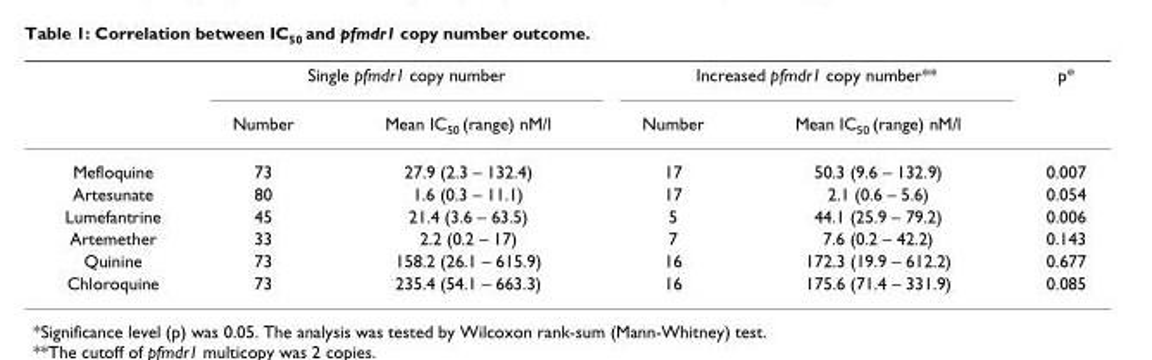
<table><thead><tr><td rowspan="2"></td><td colspan="2">Single pfmdr1 copy number</td><td colspan="2">Increased pfmdr1 copy number**</td><td rowspan="2">p*</td></tr><tr><td>Number</td><td>Mean IC<sub>50</sub> (range) nM/l</td><td>Number</td><td>Mean IC<sub>50</sub> (range) nM/l</td></tr></thead><tbody><tr><td>Mefloquine</td><td>73</td><td>27.9 (2.3 – 132.4)</td><td>17</td><td>50.3 (9.6 – 132.9)</td><td>0.007</td></tr><tr><td>Artesunate</td><td>80</td><td>1.6 (0.3 – 11.1)</td><td>17</td><td>2.1 (0.6 – 5.6)</td><td>0.054</td></tr><tr><td>Lumefantrine</td><td>45</td><td>21.4 (3.6 – 63.5)</td><td>5</td><td>44.1 (25.9 – 79.2)</td><td>0.006</td></tr><tr><td>Artemether</td><td>33</td><td>2.2 (0.2 – 17)</td><td>7</td><td>7.6 (0.2 – 42.2)</td><td>0.143</td></tr><tr><td>Quinine</td><td>73</td><td>158.2 (26.1 – 615.9)</td><td>16</td><td>172.3 (19.9 – 612.2)</td><td>0.677</td></tr><tr><td>Chloroquine</td><td>73</td><td>235.4 (54.1 – 663.3)</td><td>16</td><td>175.6 (71.4 – 331.9)</td><td>0.085</td></tr></tbody></table>